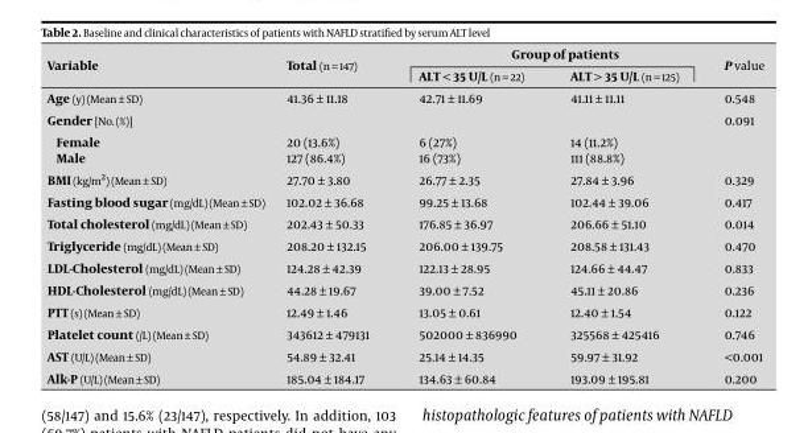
<table><thead><tr><td rowspan="2">Variable</td><td rowspan="2">Total (n = 147)</td><td colspan="2">Group of patients</td><td rowspan="2">P value</td></tr><tr><td>ALT &lt; 35 U/L (n = 22)</td><td>ALT &gt; 35 U/L (n = 125)</td></tr></thead><tbody><tr><td>Age (y) (Mean ± SD)</td><td>41.36 ± 11.18</td><td>42.71 ± 11.69</td><td>41.11 ± 11.11</td><td>0.548</td></tr><tr><td>Gender [No. (%)]</td><td></td><td></td><td></td><td>0.091</td></tr><tr><td>Female</td><td>20 (13.6%)</td><td>6 (27%)</td><td>14 (11.2%)</td><td></td></tr><tr><td>Male</td><td>127 (86.4%)</td><td>16 (73%)</td><td>111 (88.8%)</td><td></td></tr><tr><td>BMI (kg/m2) (Mean ± SD)</td><td>27.70 ± 3.80</td><td>26.77 ± 2.35</td><td>27.84 ± 3.96</td><td>0.329</td></tr><tr><td>Fasting blood sugar (mg/dL) (Mean ± SD)</td><td>102.02 ± 36.68</td><td>99.25 ± 13.68</td><td>102.44 ± 39.06</td><td>0.417</td></tr><tr><td>Total cholesterol (mg/dL) (Mean ± SD)</td><td>202.43 ± 50.33</td><td>176.85 ± 36.97</td><td>206.66 ± 51.10</td><td>0.014</td></tr><tr><td>Triglyceride (mg/dL) (Mean ± SD)</td><td>208.20 ± 132.15</td><td>206.00 ± 139.75</td><td>208.58 ± 131.43</td><td>0.470</td></tr><tr><td>LDL-Cholesterol (mg/dL) (Mean ± SD)</td><td>124.28 ± 42.39</td><td>122.13 ± 28.95</td><td>124.66 ± 44.47</td><td>0.833</td></tr><tr><td>HDL-Cholesterol (mg/dL) (Mean ± SD)</td><td>44.28 ± 19.67</td><td>39.00 ± 7.52</td><td>45.11 ± 20.86</td><td>0.236</td></tr><tr><td>PTT (s) (Mean ± SD)</td><td>12.49 ± 1.46</td><td>13.05 ± 0.61</td><td>12.40 ± 1.54</td><td>0.122</td></tr><tr><td>Platelet count (/L) (Mean ± SD)</td><td>343612 ± 479131</td><td>502000 ± 836990</td><td>325568 ± 425416</td><td>0.746</td></tr><tr><td>AST (U/L) (Mean ± SD)</td><td>54.89 ± 32.41</td><td>25.14 ± 14.35</td><td>59.97 ± 31.92</td><td>&lt;0.001</td></tr><tr><td>Alk-P (U/L) (Mean ± SD)</td><td>185.04 ± 184.17</td><td>134.63 ± 60.84</td><td>193.09 ± 195.81</td><td>0.200</td></tr></tbody></table>